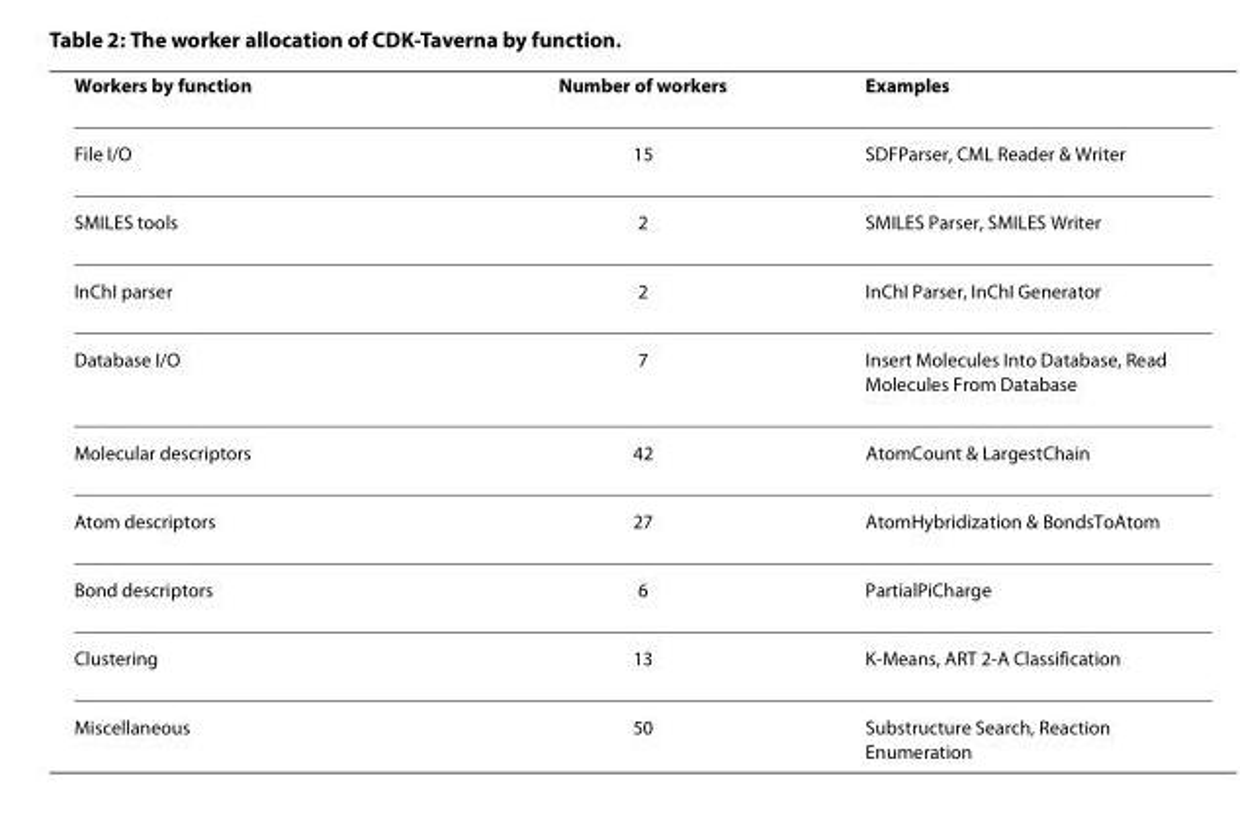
<table><thead><tr><td>Workers by function</td><td>Number of workers</td><td>Examples</td></tr></thead><tbody><tr><td>File I/O</td><td>15</td><td>SDFParser, CML Reader &amp; Writer</td></tr><tr><td>SMILES tools</td><td>2</td><td>SMILES Parser, SMILES Writer</td></tr><tr><td>InChI parser</td><td>2</td><td>InChI Parser, InChI Generator</td></tr><tr><td>Database I/O</td><td>7</td><td>Insert Molecules Into Database, Read Molecules From Database</td></tr><tr><td>Molecular descriptors</td><td>42</td><td>AtomCount &amp; LargestChain</td></tr><tr><td>Atom descriptors</td><td>27</td><td>AtomHybridization &amp; BondsToAtom</td></tr><tr><td>Bond descriptors</td><td>6</td><td>PartialPiCharge</td></tr><tr><td>Clustering</td><td>13</td><td>K-Means, ART 2-A Classification</td></tr><tr><td>Miscellaneous</td><td>50</td><td>Substructure Search, Reaction Enumeration</td></tr></tbody></table>